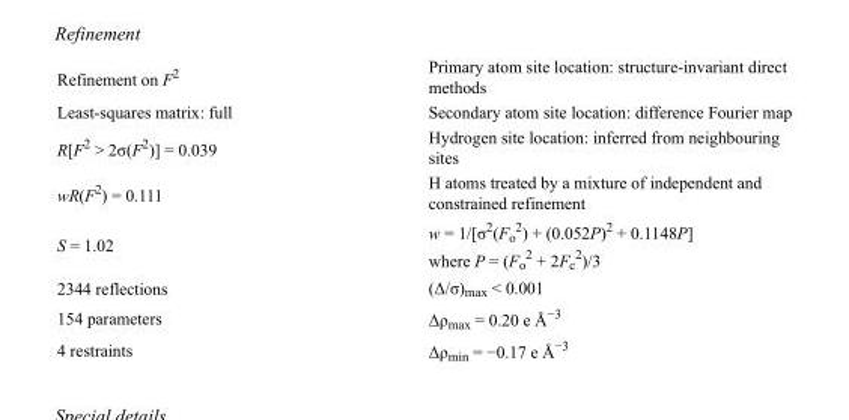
<table><tbody><tr><td>Refinement on F<sup>2</sup></td><td>Primary atom site location: structure-invariant direct methods</td></tr><tr><td>Least-squares matrix: full</td><td>Secondary atom site location: difference Fourier map</td></tr><tr><td>R[F<sup>2</sup> &gt; 2σ(F<sup>2</sup>)] = 0.039</td><td>Hydrogen site location: inferred from neighbouring sites</td></tr><tr><td>wR(F<sup>2</sup>) = 0.111</td><td>H atoms treated by a mixture of independent and constrained refinement</td></tr><tr><td>S = 1.02</td><td>w = 1/[σ<sup>2</sup>(F<sub>o</sub> <sup>2</sup>) + (0.052P)<sup>2</sup> + 0.1148P] where P = (F<sub>o</sub> <sup>2</sup> + 2F<sub>c</sub> <sup>2</sup>)/3</td></tr><tr><td>2344 reflections</td><td>(Δ/σ)<sub>max</sub> &lt; 0.001</td></tr><tr><td>154 parameters</td><td>Δρ<sub>max</sub> = 0.20 e Å<sup>−3</sup></td></tr><tr><td>4 restraints</td><td>Δρ<sub>min</sub> = −0.17 e Å<sup>−3</sup></td></tr></tbody></table>